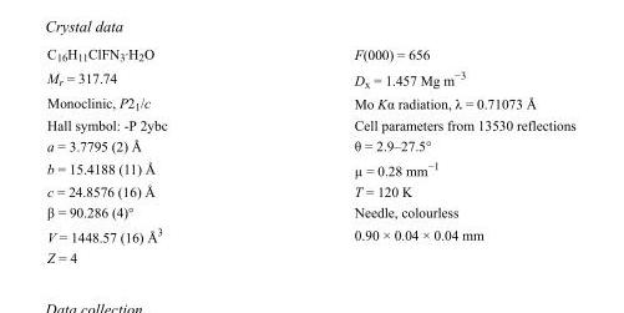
<table><tbody><tr><td>C<sub>16</sub>H<sub>11</sub>ClFN<sub>3</sub>·H<sub>2</sub>O</td><td>F(000) = 656</td></tr><tr><td>M<sub>r</sub> = 317.74</td><td>D<sub>x</sub> = 1.457 Mg m<sup>−3</sup></td></tr><tr><td>Monoclinic, P2<sub>1</sub>/c</td><td>Mo Kα radiation, λ = 0.71073 Å</td></tr><tr><td>Hall symbol: -P 2ybc</td><td>Cell parameters from 13530 reflections</td></tr><tr><td>a = 3.7795 (2) Å</td><td>θ = 2.9–27.5°</td></tr><tr><td>b = 15.4188 (11) Å</td><td>µ = 0.28 mm<sup>−1</sup></td></tr><tr><td>c = 24.8576 (16) Å</td><td>T = 120 K</td></tr><tr><td>β = 90.286 (4)°</td><td>Needle, colourless</td></tr><tr><td>V = 1448.57 (16) Å<sup>3</sup></td><td>0.90 × 0.04 × 0.04 mm</td></tr><tr><td>Z = 4</td><td></td></tr></tbody></table>